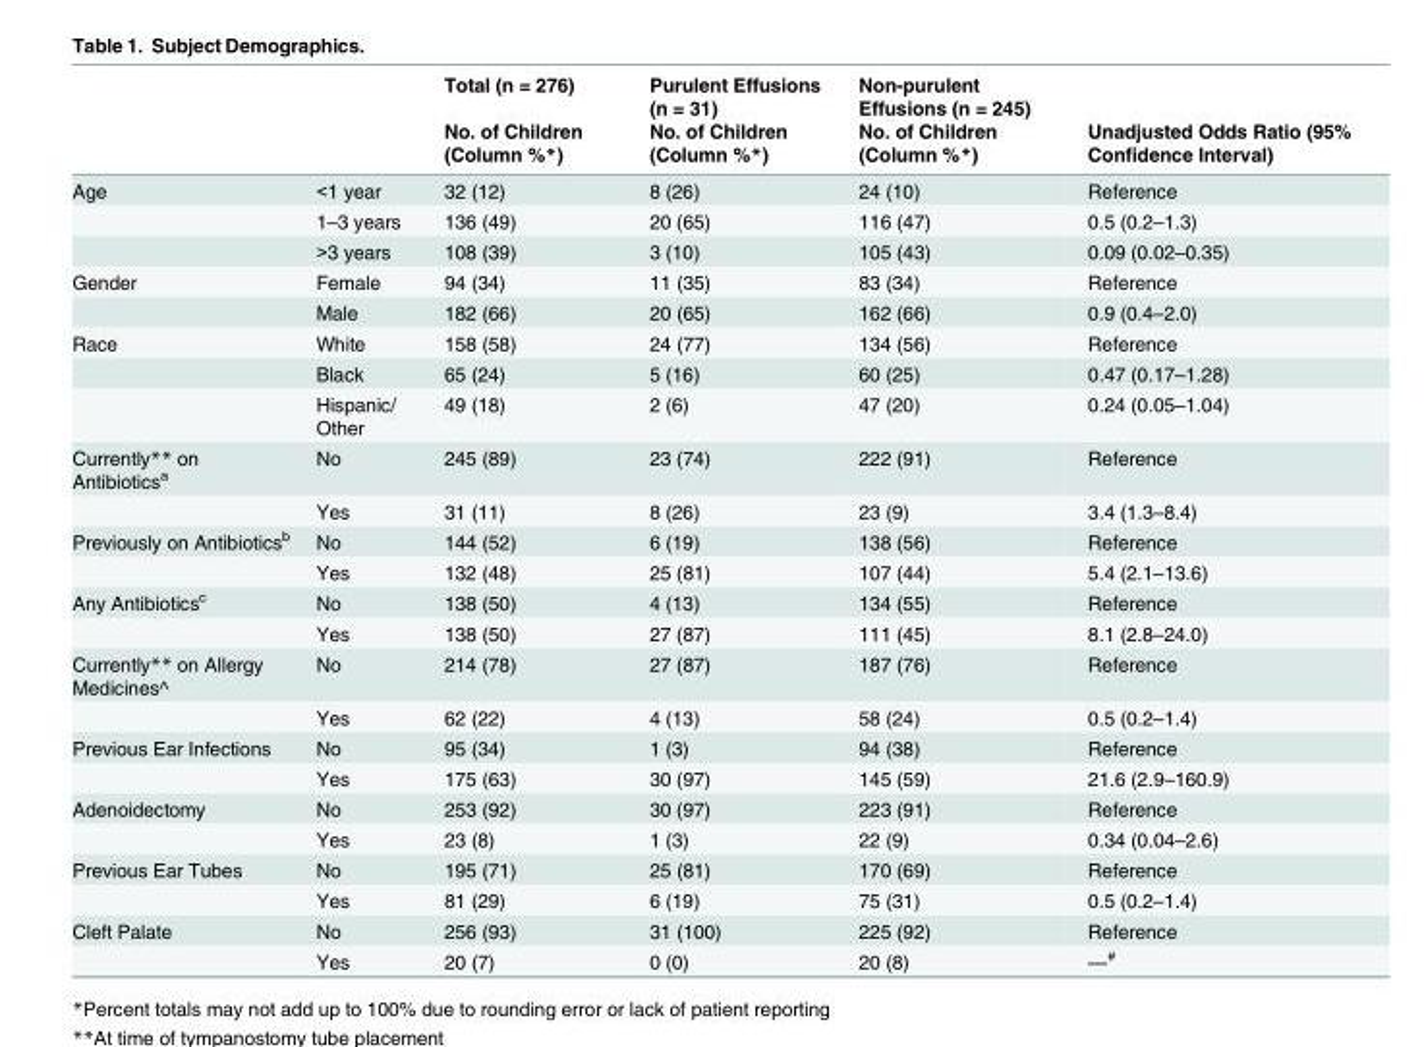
<table><thead><tr><td rowspan="2"></td><td rowspan="2"></td><td rowspan="2">Total (n = 276) No. of Children (Column %*)</td><td rowspan="2">Purulent Effusions (n = 31) No. of Children (Column %*)</td><td rowspan="2">Non-purulent Effusions (n = 245) No. of Children (Column %*)</td><td rowspan="2">Unadjusted Odds Ratio (95% Confidence Interval)</td></tr><tr></tr></thead><tbody><tr><td rowspan="3">Age</td><td>&lt;1 year</td><td>32 (12)</td><td>8 (26)</td><td>24 (10)</td><td>Reference</td></tr><tr><td>1–3 years</td><td>136 (49)</td><td>20 (65)</td><td>116 (47)</td><td>0.5 (0.2–1.3)</td></tr><tr><td>&gt;3 years</td><td>108 (39)</td><td>3 (10)</td><td>105 (43)</td><td>0.09 (0.02–0.35)</td></tr><tr><td rowspan="2">Gender</td><td>Female</td><td>94 (34)</td><td>11 (35)</td><td>83 (34)</td><td>Reference</td></tr><tr><td>Male</td><td>182 (66)</td><td>20 (65)</td><td>162 (66)</td><td>0.9 (0.4–2.0)</td></tr><tr><td rowspan="3">Race</td><td>White</td><td>158 (58)</td><td>24 (77)</td><td>134 (56)</td><td>Reference</td></tr><tr><td>Black</td><td>65 (24)</td><td>5 (16)</td><td>60 (25)</td><td>0.47 (0.17–1.28)</td></tr><tr><td>Hispanic/ Other</td><td>49 (18)</td><td>2 (6)</td><td>47 (20)</td><td>0.24 (0.05–1.04)</td></tr><tr><td rowspan="2">Currently** on Antibiotics<sup>a</sup></td><td>No</td><td>245 (89)</td><td>23 (74)</td><td>222 (91)</td><td>Reference</td></tr><tr><td>Yes</td><td>31 (11)</td><td>8 (26)</td><td>23 (9)</td><td>3.4 (1.3–8.4)</td></tr><tr><td rowspan="2">Previously on Antibiotics<sup>b</sup></td><td>No</td><td>144 (52)</td><td>6 (19)</td><td>138 (56)</td><td>Reference</td></tr><tr><td>Yes</td><td>132 (48)</td><td>25 (81)</td><td>107 (44)</td><td>5.4 (2.1–13.6)</td></tr><tr><td rowspan="2">Any Antibiotics<sup>c</sup></td><td>No</td><td>138 (50)</td><td>4 (13)</td><td>134 (55)</td><td>Reference</td></tr><tr><td>Yes</td><td>138 (50)</td><td>27 (87)</td><td>111 (45)</td><td>8.1 (2.8–24.0)</td></tr><tr><td rowspan="2">Currently** on Allergy Medicines^</td><td>No</td><td>214 (78)</td><td>27 (87)</td><td>187 (76)</td><td>Reference</td></tr><tr><td>Yes</td><td>62 (22)</td><td>4 (13)</td><td>58 (24)</td><td>0.5 (0.2–1.4)</td></tr><tr><td rowspan="2">Previous Ear Infections</td><td>No</td><td>95 (34)</td><td>1 (3)</td><td>94 (38)</td><td>Reference</td></tr><tr><td>Yes</td><td>175 (63)</td><td>30 (97)</td><td>145 (59)</td><td>21.6 (2.9–160.9)</td></tr><tr><td rowspan="2">Adenoidectomy</td><td>No</td><td>253 (92)</td><td>30 (97)</td><td>223 (91)</td><td>Reference</td></tr><tr><td>Yes</td><td>23 (8)</td><td>1 (3)</td><td>22 (9)</td><td>0.34 (0.04–2.6)</td></tr><tr><td rowspan="2">Previous Ear Tubes</td><td>No</td><td>195 (71)</td><td>25 (81)</td><td>170 (69)</td><td>Reference</td></tr><tr><td>Yes</td><td>81 (29)</td><td>6 (19)</td><td>75 (31)</td><td>0.5 (0.2–1.4)</td></tr><tr><td rowspan="2">Cleft Palate</td><td>No</td><td>256 (93)</td><td>31 (100)</td><td>225 (92)</td><td>Reference</td></tr><tr><td>Yes</td><td>20 (7)</td><td>0 (0)</td><td>20 (8)</td><td>—<sup>#</sup></td></tr></tbody></table>